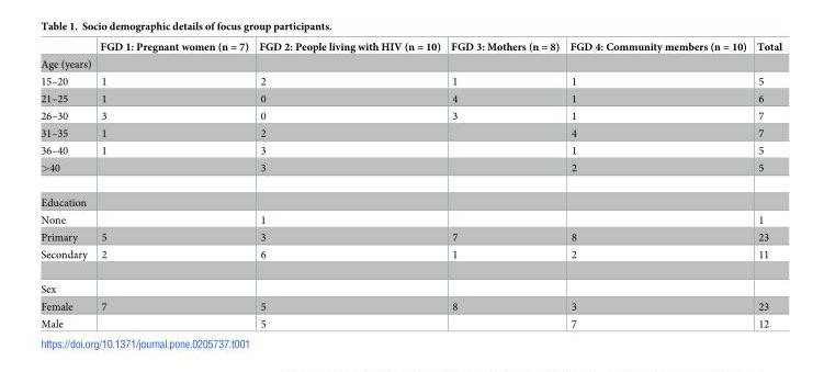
<table><thead><tr><td></td><td>FGD 1: Pregnant women (n = 7)</td><td>FGD 2: People living with HIV (n = 10)</td><td>FGD 3: Mothers (n = 8)</td><td>FGD 4: Community members (n = 10)</td><td>Total</td></tr></thead><tbody><tr><td colspan="6">Age (years)</td></tr><tr><td>15–20</td><td>1</td><td>2</td><td>1</td><td>1</td><td>5</td></tr><tr><td>21–25</td><td>1</td><td>0</td><td>4</td><td>1</td><td>6</td></tr><tr><td>26–30</td><td>3</td><td>0</td><td>3</td><td>1</td><td>7</td></tr><tr><td>31–35</td><td>1</td><td>2</td><td></td><td>4</td><td>7</td></tr><tr><td>36–40</td><td>1</td><td>3</td><td></td><td>1</td><td>5</td></tr><tr><td>&gt;40</td><td></td><td>3</td><td></td><td>2</td><td>5</td></tr><tr><td colspan="6">Education</td></tr><tr><td>None</td><td></td><td>1</td><td></td><td></td><td>1</td></tr><tr><td>Primary</td><td>5</td><td>3</td><td>7</td><td>8</td><td>23</td></tr><tr><td>Secondary</td><td>2</td><td>6</td><td>1</td><td>2</td><td>11</td></tr><tr><td colspan="6">Sex</td></tr><tr><td>Female</td><td>7</td><td>5</td><td>8</td><td>3</td><td>23</td></tr><tr><td>Male</td><td></td><td>5</td><td></td><td>7</td><td>12</td></tr></tbody></table>